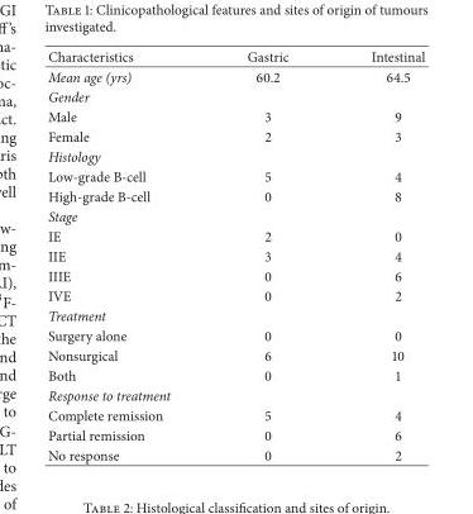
<table><thead><tr><td>Characteristics</td><td>Gastric</td><td>Intestinal</td></tr></thead><tbody><tr><td>Mean age (yrs)</td><td>60.2</td><td>64.5</td></tr><tr><td colspan="3">Gender</td></tr><tr><td>Male</td><td>3</td><td>9</td></tr><tr><td>Female</td><td>2</td><td>3</td></tr><tr><td colspan="3">Histology</td></tr><tr><td>Low-grade B-cell</td><td>5</td><td>4</td></tr><tr><td>High-grade B-cell</td><td>0</td><td>8</td></tr><tr><td colspan="3">Stage</td></tr><tr><td>IE</td><td>2</td><td>0</td></tr><tr><td>IIE</td><td>3</td><td>4</td></tr><tr><td>IIIE</td><td>0</td><td>6</td></tr><tr><td>IVE</td><td>0</td><td>2</td></tr><tr><td colspan="3">Treatment</td></tr><tr><td>Surgery alone</td><td>0</td><td>0</td></tr><tr><td>Nonsurgical</td><td>6</td><td>10</td></tr><tr><td>Both</td><td>0</td><td>1</td></tr><tr><td colspan="3">Response to treatment</td></tr><tr><td>Complete remission</td><td>5</td><td>4</td></tr><tr><td>Partial remission</td><td>0</td><td>6</td></tr><tr><td>No response</td><td>0</td><td>2</td></tr></tbody></table>